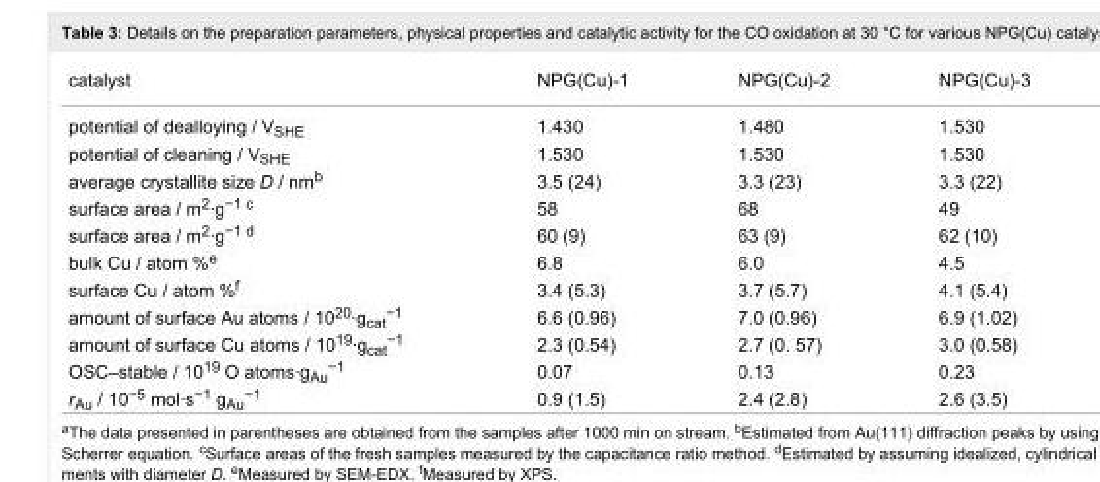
<table><tbody><tr><td>catalyst</td><td>NPG(Cu)-1</td><td>NPG(Cu)-2</td><td>NPG(Cu)-3</td></tr><tr><td>potential of dealloying / V<sub>SHE</sub></td><td>1.430</td><td>1.480</td><td>1.530</td></tr><tr><td>potential of cleaning / V<sub>SHE</sub></td><td>1.530</td><td>1.530</td><td>1.530</td></tr><tr><td>average crystallite size D / nm<sup>b</sup></td><td>3.5 (24)</td><td>3.3 (23)</td><td>3.3 (22)</td></tr><tr><td>surface area / m<sup>2</sup>·g<sup>−1 c</sup></td><td>58</td><td>68</td><td>49</td></tr><tr><td>surface area / m<sup>2</sup>·g<sup>−1 d</sup></td><td>60 (9)</td><td>63 (9)</td><td>62 (10)</td></tr><tr><td>bulk Cu / atom %<sup>e</sup></td><td>6.8</td><td>6.0</td><td>4.5</td></tr><tr><td>surface Cu / atom %<sup>f</sup></td><td>3.4 (5.3)</td><td>3.7 (5.7)</td><td>4.1 (5.4)</td></tr><tr><td>amount of surface Au atoms / 10<sup>20</sup>·g<sub>cat</sub><sup>−1</sup></td><td>6.6 (0.96)</td><td>7.0 (0.96)</td><td>6.9 (1.02)</td></tr><tr><td>amount of surface Cu atoms / 10<sup>19</sup>·g<sub>cat</sub><sup>−1</sup></td><td>2.3 (0.54)</td><td>2.7 (0. 57)</td><td>3.0 (0.58)</td></tr><tr><td>OSC–stable / 10<sup>19</sup> O atoms·g<sub>Au</sub><sup>−1</sup></td><td>0.07</td><td>0.13</td><td>0.23</td></tr><tr><td>r<sub>Au</sub> / 10<sup>−5</sup> mol·s<sup>−1</sup> g<sub>Au</sub><sup>−1</sup></td><td>0.9 (1.5)</td><td>2.4 (2.8)</td><td>2.6 (3.5)</td></tr></tbody></table>